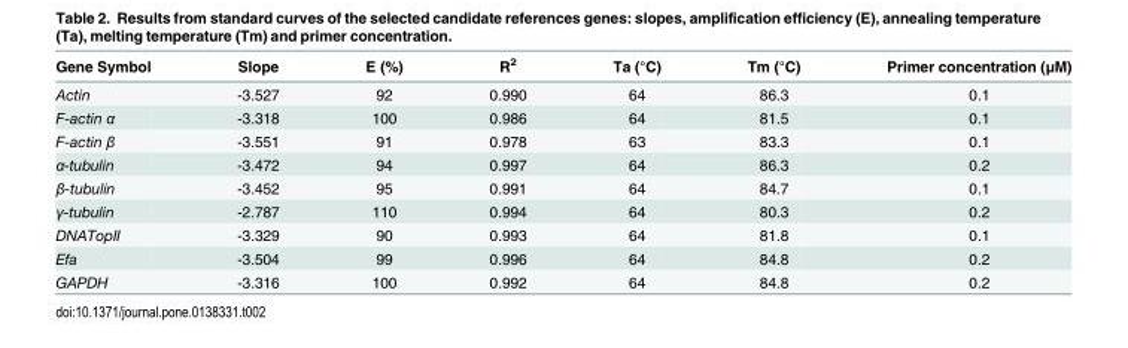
<table><thead><tr><td>Gene Symbol</td><td>Slope</td><td>E (%)</td><td>R<sup>2</sup></td><td>Ta (°C)</td><td>Tm (°C)</td><td>Primer concentration (μM)</td></tr></thead><tbody><tr><td>Actin</td><td>-3.527</td><td>92</td><td>0.990</td><td>64</td><td>86.3</td><td>0.1</td></tr><tr><td>F-actin α</td><td>-3.318</td><td>100</td><td>0.986</td><td>64</td><td>81.5</td><td>0.1</td></tr><tr><td>F-actin β</td><td>-3.551</td><td>91</td><td>0.978</td><td>63</td><td>83.3</td><td>0.1</td></tr><tr><td>α-tubulin</td><td>-3.472</td><td>94</td><td>0.997</td><td>64</td><td>86.3</td><td>0.2</td></tr><tr><td>β-tubulin</td><td>-3.452</td><td>95</td><td>0.991</td><td>64</td><td>84.7</td><td>0.1</td></tr><tr><td>γ-tubulin</td><td>-2.787</td><td>110</td><td>0.994</td><td>64</td><td>80.3</td><td>0.2</td></tr><tr><td>DNATopII</td><td>-3.329</td><td>90</td><td>0.993</td><td>64</td><td>81.8</td><td>0.1</td></tr><tr><td>Efa</td><td>-3.504</td><td>99</td><td>0.996</td><td>64</td><td>84.8</td><td>0.2</td></tr><tr><td>GAPDH</td><td>-3.316</td><td>100</td><td>0.992</td><td>64</td><td>84.8</td><td>0.2</td></tr></tbody></table>